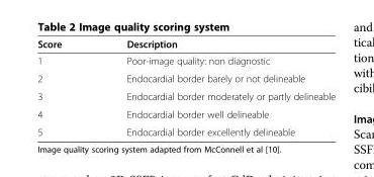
<table><thead><tr><td>Score</td><td>Description</td></tr></thead><tbody><tr><td>1</td><td>Poor-image quality: non diagnostic</td></tr><tr><td>2</td><td>Endocardial border barely or not delineable</td></tr><tr><td>3</td><td>Endocardial border moderately or partly delineable</td></tr><tr><td>4</td><td>Endocardial border well delineable</td></tr><tr><td>5</td><td>Endocardial border excellently delineable</td></tr></tbody></table>